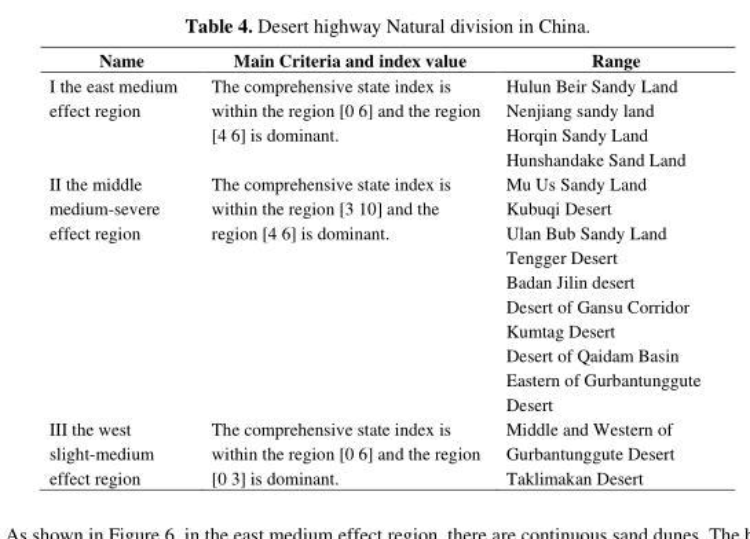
<table><thead><tr><td>Name</td><td>Main Criteria and index value</td><td>Range</td></tr></thead><tbody><tr><td>I the east medium effect region</td><td>The comprehensive state index is within the region [0 6] and the region [4 6] is dominant.</td><td>Hulun Beir Sandy Land Nenjiang sandy land Horqin Sandy Land Hunshandake Sand Land</td></tr><tr><td>II the middle medium-severe effect region</td><td>The comprehensive state index is within the region [3 10] and the region [4 6] is dominant.</td><td>Mu Us Sandy Land Kubuqi Desert Ulan Bub Sandy Land Tengger Desert Badan Jilin desert Desert of Gansu Corridor Kumtag Desert Desert of Qaidam Basin Eastern of Gurbantunggute Desert</td></tr><tr><td>III the west slight-medium effect region</td><td>The comprehensive state index is within the region [0 6] and the region [0 3] is dominant.</td><td>Middle and Western of Gurbantunggute Desert Taklimakan Desert</td></tr></tbody></table>